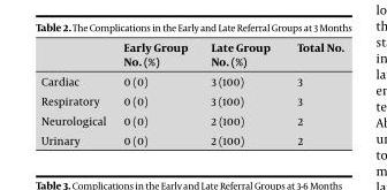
<table><thead><tr><td></td><td>Early Group No. (%)</td><td>Late Group No. (%)</td><td>Total No.</td></tr></thead><tbody><tr><td>Cardiac</td><td>0 (0)</td><td>3 (100)</td><td>3</td></tr><tr><td>Respiratory</td><td>0 (0)</td><td>3 (100)</td><td>3</td></tr><tr><td>Neurological</td><td>0 (0)</td><td>2 (100)</td><td>2</td></tr><tr><td>Urinary</td><td>0 (0)</td><td>2 (100)</td><td>2</td></tr></tbody></table>